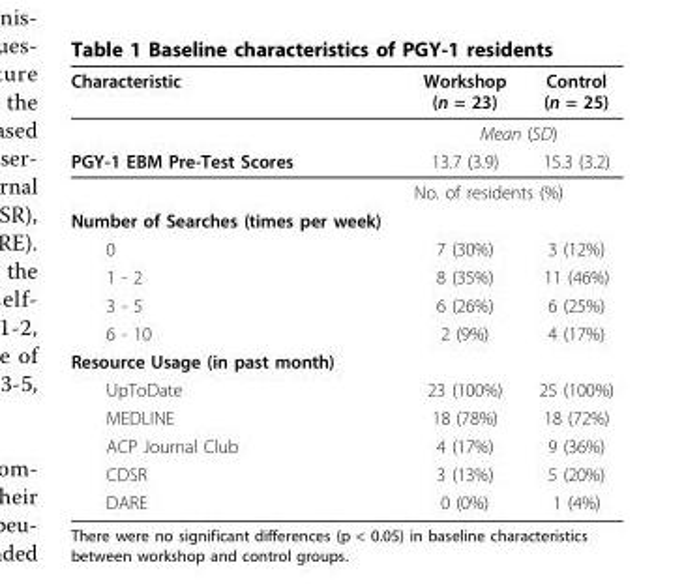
<table><thead><tr><td>Characteristic</td><td>Workshop (n = 23)</td><td>Control (n = 25)</td></tr></thead><tbody><tr><td></td><td colspan="2">Mean (SD)</td></tr><tr><td rowspan="2">PGY-1 EBM Pre-Test Scores</td><td>13.7 (3.9)</td><td>15.3 (3.2)</td></tr><tr><td colspan="2">No. of residents (%)</td></tr><tr><td colspan="3">Number of Searches (times per week)</td></tr><tr><td>0</td><td>7 (30%)</td><td>3 (12%)</td></tr><tr><td>1 - 2</td><td>8 (35%)</td><td>11 (46%)</td></tr><tr><td>3 - 5</td><td>6 (26%)</td><td>6 (25%)</td></tr><tr><td>6 - 10</td><td>2 (9%)</td><td>4 (17%)</td></tr><tr><td colspan="3">Resource Usage (in past month)</td></tr><tr><td>UpToDate</td><td>23 (100%)</td><td>25 (100%)</td></tr><tr><td>MEDLINE</td><td>18 (78%)</td><td>18 (72%)</td></tr><tr><td>ACP Journal Club</td><td>4 (17%)</td><td>9 (36%)</td></tr><tr><td>CDSR</td><td>3 (13%)</td><td>5 (20%)</td></tr><tr><td>DARE</td><td>0 (0%)</td><td>1 (4%)</td></tr></tbody></table>